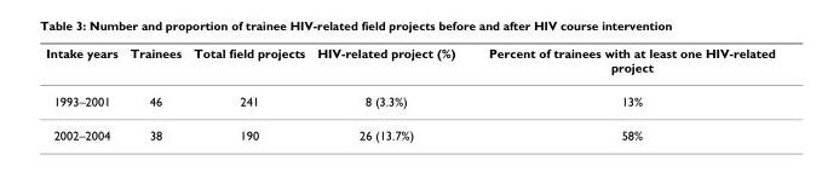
<table><thead><tr><td>Intake years</td><td>Trainees</td><td>Total field projects</td><td>HIV-related project (%)</td><td>Percent of trainees with at least one HIV-related project</td></tr></thead><tbody><tr><td>1993–2001</td><td>46</td><td>241</td><td>8 (3.3%)</td><td>13%</td></tr><tr><td>2002–2004</td><td>38</td><td>190</td><td>26 (13.7%)</td><td>58%</td></tr></tbody></table>